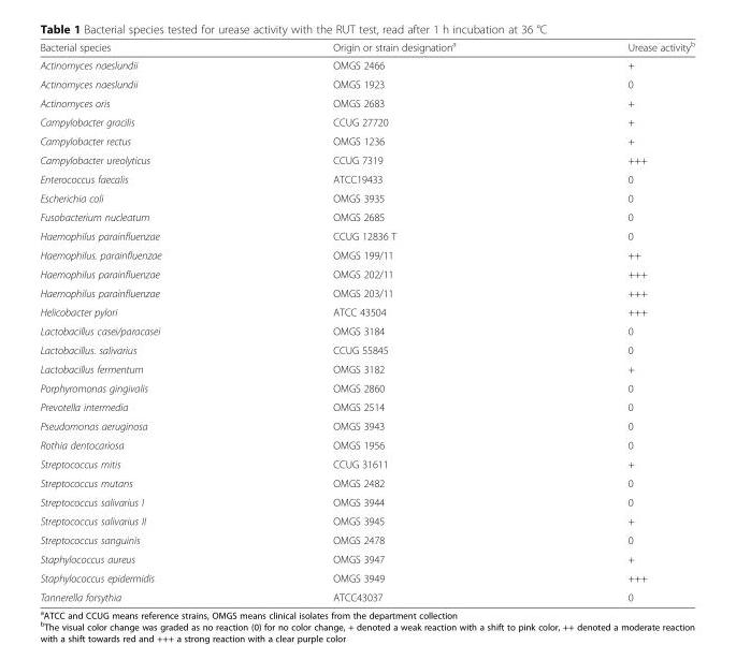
<table><thead><tr><td>Bacterial species</td><td>Origin or strain designation<sup>a</sup></td><td>Urease activity<sup>b</sup></td></tr></thead><tbody><tr><td>Actinomyces naeslundii</td><td>OMGS 2466</td><td>+</td></tr><tr><td>Actinomyces naeslundii</td><td>OMGS 1923</td><td>0</td></tr><tr><td>Actinomyces oris</td><td>OMGS 2683</td><td>+</td></tr><tr><td>Campylobacter gracilis</td><td>CCUG 27720</td><td>+</td></tr><tr><td>Campylobacter rectus</td><td>OMGS 1236</td><td>+</td></tr><tr><td>Campylobacter ureolyticus</td><td>CCUG 7319</td><td>+++</td></tr><tr><td>Enterococcus faecalis</td><td>ATCC19433</td><td>0</td></tr><tr><td>Escherichia coli</td><td>OMGS 3935</td><td>0</td></tr><tr><td>Fusobacterium nucleatum</td><td>OMGS 2685</td><td>0</td></tr><tr><td>Haemophilus parainfluenzae</td><td>CCUG 12836 T</td><td>0</td></tr><tr><td>Haemophilus. parainfluenzae</td><td>OMGS 199/11</td><td>++</td></tr><tr><td>Haemophilus parainfluenzae</td><td>OMGS 202/11</td><td>+++</td></tr><tr><td>Haemophilus parainfluenzae</td><td>OMGS 203/11</td><td>+++</td></tr><tr><td>Helicobacter pylori</td><td>ATCC 43504</td><td>+++</td></tr><tr><td>Lactobacillus casei/paracasei</td><td>OMGS 3184</td><td>0</td></tr><tr><td>Lactobacillus. salivarius</td><td>CCUG 55845</td><td>0</td></tr><tr><td>Lactobacillus fermentum</td><td>OMGS 3182</td><td>+</td></tr><tr><td>Porphyromonas gingivalis</td><td>OMGS 2860</td><td>0</td></tr><tr><td>Prevotella intermedia</td><td>OMGS 2514</td><td>0</td></tr><tr><td>Pseudomonas aeruginosa</td><td>OMGS 3943</td><td>0</td></tr><tr><td>Rothia dentocariosa</td><td>OMGS 1956</td><td>0</td></tr><tr><td>Streptococcus mitis</td><td>CCUG 31611</td><td>+</td></tr><tr><td>Streptococcus mutans</td><td>OMGS 2482</td><td>0</td></tr><tr><td>Streptococcus salivarius I</td><td>OMGS 3944</td><td>0</td></tr><tr><td>Streptococcus salivarius II</td><td>OMGS 3945</td><td>+</td></tr><tr><td>Streptococcus sanguinis</td><td>OMGS 2478</td><td>0</td></tr><tr><td>Staphylococcus aureus</td><td>OMGS 3947</td><td>+</td></tr><tr><td>Staphylococcus epidermidis</td><td>OMGS 3949</td><td>+++</td></tr><tr><td>Tannerella forsythia</td><td>ATCC43037</td><td>0</td></tr></tbody></table>